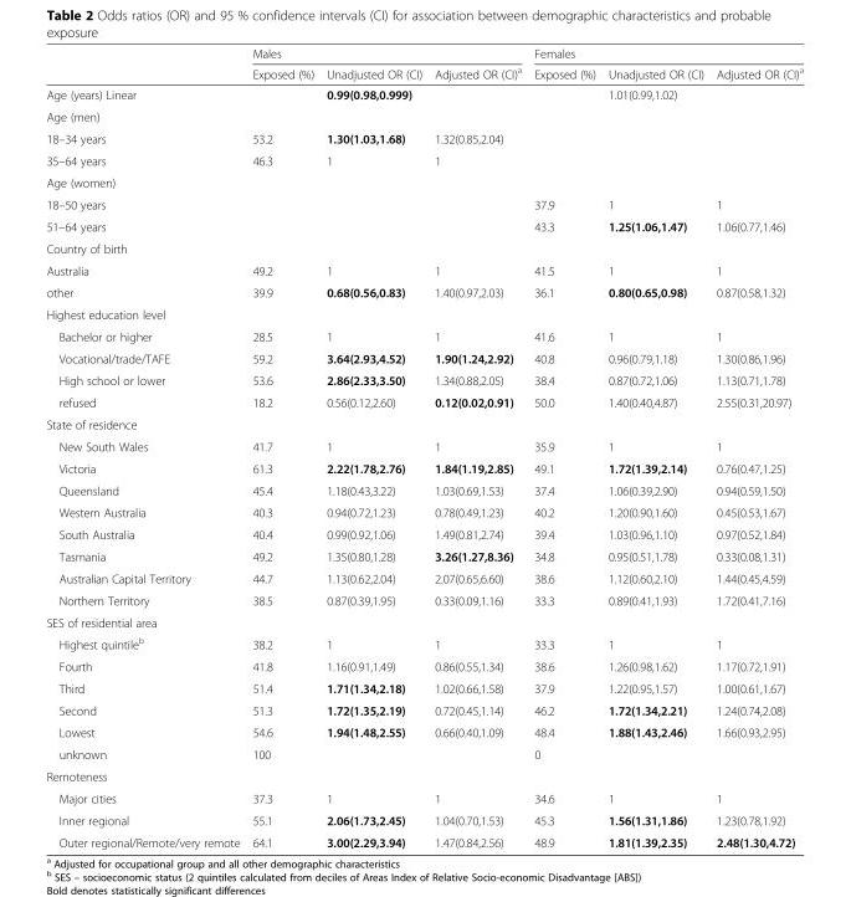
<table><thead><tr><td rowspan="2"></td><td colspan="3">Males</td><td colspan="3">Females</td></tr><tr><td>Exposed (%)</td><td>Unadjusted OR (CI)</td><td>Adjusted OR (CI)<sup>a</sup></td><td>Exposed (%)</td><td>Unadjusted OR (CI)</td><td>Adjusted OR (CI)<sup>a</sup></td></tr></thead><tbody><tr><td>Age (years) Linear</td><td></td><td>0.99(0.98,0.999)</td><td></td><td></td><td>1.01(0.99,1.02)</td><td></td></tr><tr><td colspan="7">Age (men)</td></tr><tr><td>18–34 years</td><td>53.2</td><td>1.30(1.03,1.68)</td><td>1.32(0.85,2.04)</td><td></td><td></td><td></td></tr><tr><td>35–64 years</td><td>46.3</td><td>1</td><td>1</td><td></td><td></td><td></td></tr><tr><td colspan="7">Age (women)</td></tr><tr><td>18–50 years</td><td></td><td></td><td></td><td>37.9</td><td>1</td><td>1</td></tr><tr><td>51–64 years</td><td></td><td></td><td></td><td>43.3</td><td>1.25(1.06,1.47)</td><td>1.06(0.77,1.46)</td></tr><tr><td colspan="7">Country of birth</td></tr><tr><td>Australia</td><td>49.2</td><td>1</td><td>1</td><td>41.5</td><td>1</td><td>1</td></tr><tr><td>other</td><td>39.9</td><td>0.68(0.56,0.83)</td><td>1.40(0.97,2.03)</td><td>36.1</td><td>0.80(0.65,0.98)</td><td>0.87(0.58,1.32)</td></tr><tr><td colspan="7">Highest education level</td></tr><tr><td>Bachelor or higher</td><td>28.5</td><td>1</td><td>1</td><td>41.6</td><td>1</td><td>1</td></tr><tr><td>Vocational/trade/TAFE</td><td>59.2</td><td>3.64(2.93,4.52)</td><td>1.90(1.24,2.92)</td><td>40.8</td><td>0.96(0.79,1.18)</td><td>1.30(0.86,1.96)</td></tr><tr><td>High school or lower</td><td>53.6</td><td>2.86(2.33,3.50)</td><td>1.34(0.88,2.05)</td><td>38.4</td><td>0.87(0.72,1.06)</td><td>1.13(0.71,1.78)</td></tr><tr><td>refused</td><td>18.2</td><td>0.56(0.12,2.60)</td><td>0.12(0.02,0.91)</td><td>50.0</td><td>1.40(0.40,4.87)</td><td>2.55(0.31,20.97)</td></tr><tr><td colspan="7">State of residence</td></tr><tr><td>New South Wales</td><td>41.7</td><td>1</td><td>1</td><td>35.9</td><td>1</td><td>1</td></tr><tr><td>Victoria</td><td>61.3</td><td>2.22(1.78,2.76)</td><td>1.84(1.19,2.85)</td><td>49.1</td><td>1.72(1.39,2.14)</td><td>0.76(0.47,1.25)</td></tr><tr><td>Queensland</td><td>45.4</td><td>1.18(0.43,3.22)</td><td>1.03(0.69,1.53)</td><td>37.4</td><td>1.06(0.39,2.90)</td><td>0.94(0.59,1.50)</td></tr><tr><td>Western Australia</td><td>40.3</td><td>0.94(0.72,1.23)</td><td>0.78(0.49,1.23)</td><td>40.2</td><td>1.20(0.90,1.60)</td><td>0.45(0.53,1.67)</td></tr><tr><td>South Australia</td><td>40.4</td><td>0.99(0.92,1.06)</td><td>1.49(0.81,2.74)</td><td>39.4</td><td>1.03(0.96,1.10)</td><td>0.97(0.52,1.84)</td></tr><tr><td>Tasmania</td><td>49.2</td><td>1.35(0.80,1.28)</td><td>3.26(1.27,8.36)</td><td>34.8</td><td>0.95(0.51,1.78)</td><td>0.33(0.08,1.31)</td></tr><tr><td>Australian Capital Territory</td><td>44.7</td><td>1.13(0.62,2.04)</td><td>2.07(0.65,6.60)</td><td>38.6</td><td>1.12(0.60,2.10)</td><td>1.44(0.45,4.59)</td></tr><tr><td>Northern Territory</td><td>38.5</td><td>0.87(0.39,1.95)</td><td>0.33(0.09,1.16)</td><td>33.3</td><td>0.89(0.41,1.93)</td><td>1.72(0.41,7.16)</td></tr><tr><td colspan="7">SES of residential area</td></tr><tr><td>Highest quintile<sup>b</sup></td><td>38.2</td><td>1</td><td>1</td><td>33.3</td><td>1</td><td>1</td></tr><tr><td>Fourth</td><td>41.8</td><td>1.16(0.91,1.49)</td><td>0.86(0.55,1.34)</td><td>38.6</td><td>1.26(0.98,1.62)</td><td>1.17(0.72,1.91)</td></tr><tr><td>Third</td><td>51.4</td><td>1.71(1.34,2.18)</td><td>1.02(0.66,1.58)</td><td>37.9</td><td>1.22(0.95,1.57)</td><td>1.00(0.61,1.67)</td></tr><tr><td>Second</td><td>51.3</td><td>1.72(1.35,2.19)</td><td>0.72(0.45,1.14)</td><td>46.2</td><td>1.72(1.34,2.21)</td><td>1.24(0.74,2.08)</td></tr><tr><td>Lowest</td><td>54.6</td><td>1.94(1.48,2.55)</td><td>0.66(0.40,1.09)</td><td>48.4</td><td>1.88(1.43,2.46)</td><td>1.66(0.93,2.95)</td></tr><tr><td>unknown</td><td>100</td><td></td><td></td><td>0</td><td></td><td></td></tr><tr><td colspan="7">Remoteness</td></tr><tr><td>Major cities</td><td>37.3</td><td>1</td><td>1</td><td>34.6</td><td>1</td><td>1</td></tr><tr><td>Inner regional</td><td>55.1</td><td>2.06(1.73,2.45)</td><td>1.04(0.70,1.53)</td><td>45.3</td><td>1.56(1.31,1.86)</td><td>1.23(0.78,1.92)</td></tr><tr><td>Outer regional/Remote/very remote</td><td>64.1</td><td>3.00(2.29,3.94)</td><td>1.47(0.84,2.56)</td><td>48.9</td><td>1.81(1.39,2.35)</td><td>2.48(1.30,4.72)</td></tr></tbody></table>